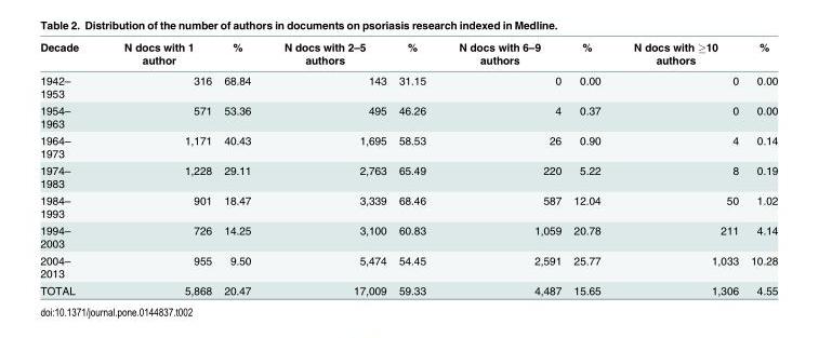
<table><thead><tr><td>Decade</td><td>N docs with 1 author</td><td>%</td><td>N docs with 2–5 authors</td><td>%</td><td>N docs with 6–9 authors</td><td>%</td><td>N docs with ≥10 authors</td><td>%</td></tr></thead><tbody><tr><td>1942– 1953</td><td>316</td><td>68.84</td><td>143</td><td>31.15</td><td>0</td><td>0.00</td><td>0</td><td>0.00</td></tr><tr><td>1954– 1963</td><td>571</td><td>53.36</td><td>495</td><td>46.26</td><td>4</td><td>0.37</td><td>0</td><td>0.00</td></tr><tr><td>1964– 1973</td><td>1,171</td><td>40.43</td><td>1,695</td><td>58.53</td><td>26</td><td>0.90</td><td>4</td><td>0.14</td></tr><tr><td>1974– 1983</td><td>1,228</td><td>29.11</td><td>2,763</td><td>65.49</td><td>220</td><td>5.22</td><td>8</td><td>0.19</td></tr><tr><td>1984– 1993</td><td>901</td><td>18.47</td><td>3,339</td><td>68.46</td><td>587</td><td>12.04</td><td>50</td><td>1.02</td></tr><tr><td>1994– 2003</td><td>726</td><td>14.25</td><td>3,100</td><td>60.83</td><td>1,059</td><td>20.78</td><td>211</td><td>4.14</td></tr><tr><td>2004– 2013</td><td>955</td><td>9.50</td><td>5,474</td><td>54.45</td><td>2,591</td><td>25.77</td><td>1,033</td><td>10.28</td></tr><tr><td>TOTAL</td><td>5,868</td><td>20.47</td><td>17,009</td><td>59.33</td><td>4,487</td><td>15.65</td><td>1,306</td><td>4.55</td></tr></tbody></table>